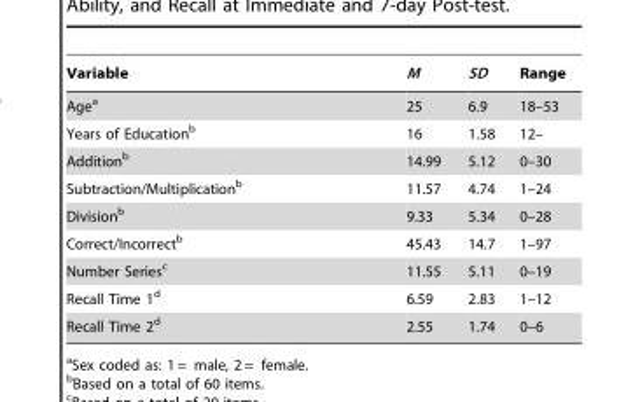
<table><thead><tr><td>Variable</td><td>M</td><td>SD</td><td>Range</td></tr></thead><tbody><tr><td>Age<sup>a</sup></td><td>25</td><td>6.9</td><td>18–53</td></tr><tr><td>Years of Education<sup>b</sup></td><td>16</td><td>1.58</td><td>12–</td></tr><tr><td>Addition<sup>b</sup></td><td>14.99</td><td>5.12</td><td>0–30</td></tr><tr><td>Subtraction/Multiplication<sup>b</sup></td><td>11.57</td><td>4.74</td><td>1–24</td></tr><tr><td>Division<sup>b</sup></td><td>9.33</td><td>5.34</td><td>0–28</td></tr><tr><td>Correct/Incorrect<sup>b</sup></td><td>45.43</td><td>14.7</td><td>1–97</td></tr><tr><td>Number Series<sup>c</sup></td><td>11.55</td><td>5.11</td><td>0–19</td></tr><tr><td>Recall Time 1<sup>d</sup></td><td>6.59</td><td>2.83</td><td>1–12</td></tr><tr><td>Recall Time 2<sup>d</sup></td><td>2.55</td><td>1.74</td><td>0–6</td></tr></tbody></table>